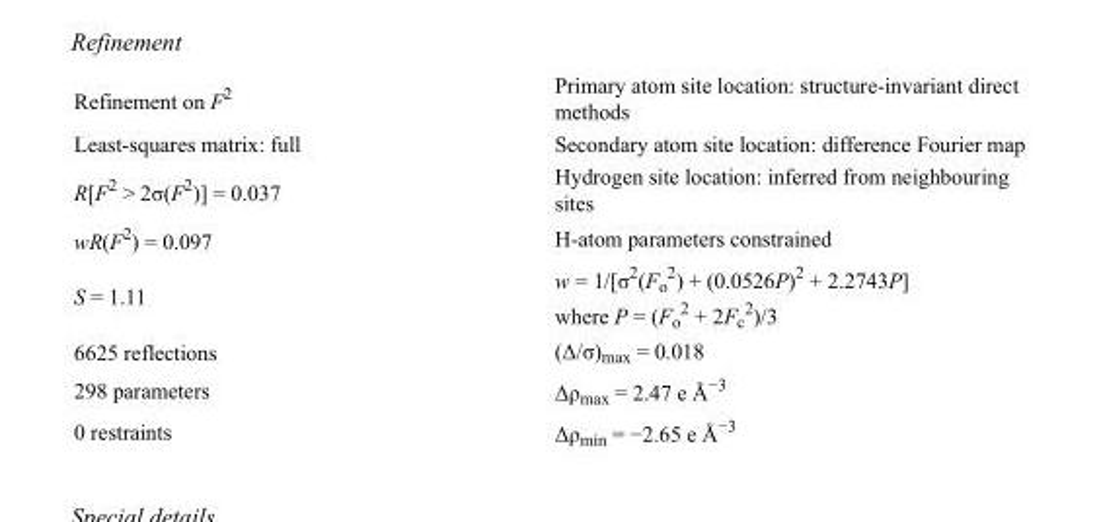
<table><tbody><tr><td>Refinement on F<sup>2</sup></td><td>Primary atom site location: structure-invariant direct methods</td></tr><tr><td>Least-squares matrix: full</td><td>Secondary atom site location: difference Fourier map</td></tr><tr><td>R[F<sup>2</sup> &gt; 2σ(F<sup>2</sup>)] = 0.037</td><td>Hydrogen site location: inferred from neighbouring sites</td></tr><tr><td>wR(F<sup>2</sup>) = 0.097</td><td>H-atom parameters constrained</td></tr><tr><td>S = 1.11</td><td>w = 1/[σ<sup>2</sup>(F<sub>o</sub> <sup>2</sup>) + (0.0526P)<sup>2</sup> + 2.2743P] where P = (F<sub>o</sub> <sup>2</sup> + 2F<sub>c</sub> <sup>2</sup>)/3</td></tr><tr><td>6625 reflections</td><td>(Δ/σ)<sub>max</sub> = 0.018</td></tr><tr><td>298 parameters</td><td>Δρ<sub>max</sub> = 2.47 e Å<sup>−3</sup></td></tr><tr><td>0 restraints</td><td>Δρ<sub>min</sub> = −2.65 e Å<sup>−3</sup></td></tr></tbody></table>